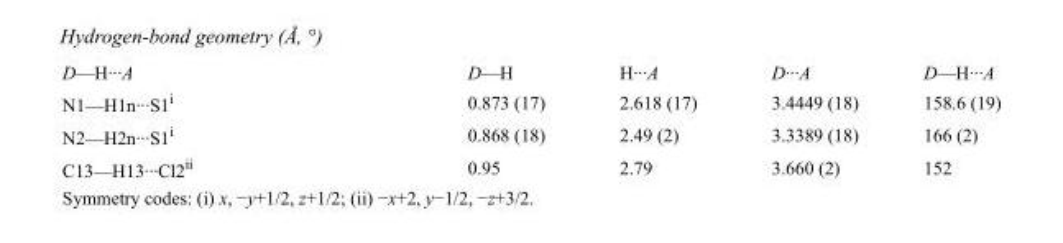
<table><tbody><tr><td>D—H···A</td><td>D—H</td><td>H···A</td><td>D···A</td><td>D—H···A</td></tr><tr><td>N1—H1n···S1<sup>i</sup></td><td>0.873 (17)</td><td>2.618 (17)</td><td>3.4449 (18)</td><td>158.6 (19)</td></tr><tr><td>N2—H2n···S1<sup>i</sup></td><td>0.868 (18)</td><td>2.49 (2)</td><td>3.3389 (18)</td><td>166 (2)</td></tr><tr><td>C13—H13···Cl2<sup>ii</sup></td><td>0.95</td><td>2.79</td><td>3.660 (2)</td><td>152</td></tr></tbody></table>